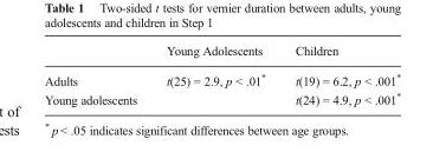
<table><thead><tr><td></td><td>Young Adolescents</td><td>Children</td></tr></thead><tbody><tr><td>Adults</td><td>t(25) = 2.9, p &lt; .01*</td><td>t(19) = 6.2, p &lt; .001*</td></tr><tr><td>Young adolescents</td><td></td><td>t(24) = 4.9, p &lt; .001*</td></tr></tbody></table>